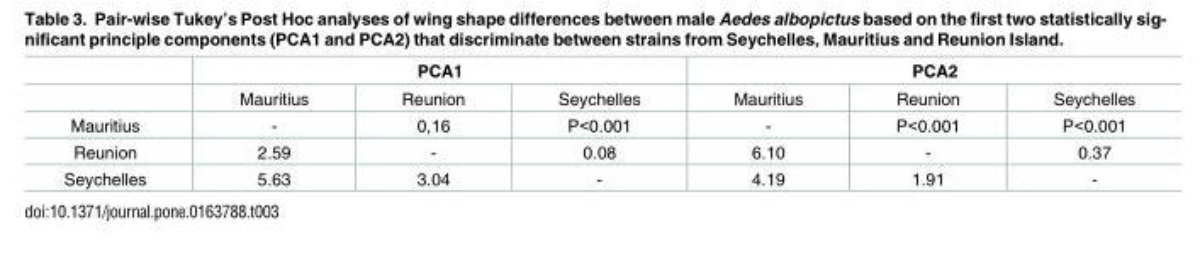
<table><thead><tr><td rowspan="2"></td><td colspan="3">PCA1</td><td colspan="3">PCA2</td></tr><tr><td>Mauritius</td><td>Reunion</td><td>Seychelles</td><td>Mauritius</td><td>Reunion</td><td>Seychelles</td></tr></thead><tbody><tr><td>Mauritius</td><td>-</td><td>0,16</td><td>P&lt;0.001</td><td>-</td><td>P&lt;0.001</td><td>P&lt;0.001</td></tr><tr><td>Reunion</td><td>2.59</td><td>-</td><td>0.08</td><td>6.10</td><td>-</td><td>0.37</td></tr><tr><td>Seychelles</td><td>5.63</td><td>3.04</td><td>-</td><td>4.19</td><td>1.91</td><td>-</td></tr></tbody></table>